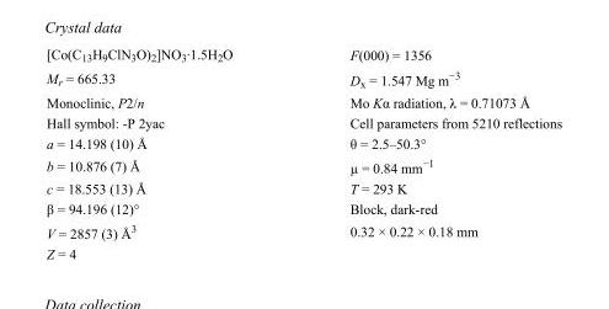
<table><tbody><tr><td>[Co(C<sub>13</sub>H<sub>9</sub>ClN<sub>3</sub>O)<sub>2</sub>]NO<sub>3</sub>·1.5H<sub>2</sub>O</td><td>F(000) = 1356</td></tr><tr><td>M<sub>r</sub> = 665.33</td><td>D<sub>x</sub> = 1.547 Mg m<sup>−3</sup></td></tr><tr><td>Monoclinic, P2/n</td><td>Mo Kα radiation, λ = 0.71073 Å</td></tr><tr><td>Hall symbol: -P 2yac</td><td>Cell parameters from 5210 reflections</td></tr><tr><td>a = 14.198 (10) Å</td><td>θ = 2.5–50.3°</td></tr><tr><td>b = 10.876 (7) Å</td><td>µ = 0.84 mm<sup>−1</sup></td></tr><tr><td>c = 18.553 (13) Å</td><td>T = 293 K</td></tr><tr><td>β = 94.196 (12)°</td><td>Block, dark-red</td></tr><tr><td>V = 2857 (3) Å<sup>3</sup></td><td>0.32 × 0.22 × 0.18 mm</td></tr><tr><td>Z = 4</td><td></td></tr></tbody></table>